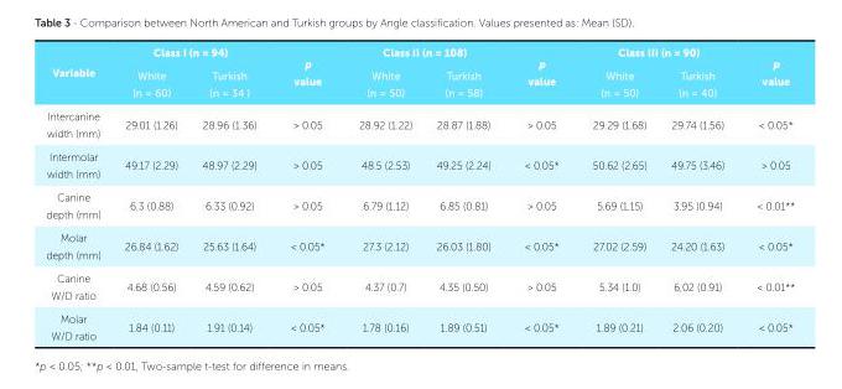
<table><thead><tr><td rowspan="2">Variable</td><td colspan="2">Class I (n = 94)</td><td rowspan="2">p value</td><td colspan="2">Class II (n = 108)</td><td rowspan="2">p value</td><td colspan="2">Class III (n = 90)</td><td rowspan="2">p value</td></tr><tr><td>White (n = 60)</td><td>Turkish (n = 34 )</td><td>White (n = 50)</td><td>Turkish (n = 58)</td><td>White (n = 50)</td><td>Turkish (n = 40)</td></tr></thead><tbody><tr><td>Intercanine width (mm)</td><td>29.01 (1.26)</td><td>28.96 (1.36)</td><td>&gt; 0.05</td><td>28.92 (1.22)</td><td>28.87 (1.88)</td><td>&gt; 0.05</td><td>29.29 (1.68)</td><td>29.74 (1.56)</td><td>&lt; 0.05*</td></tr><tr><td>Intermolar width (mm)</td><td>49.17 (2.29)</td><td>48.97 (2.29)</td><td>&gt; 0.05</td><td>48.5 (2.53)</td><td>49.25 (2.24)</td><td>&lt; 0.05*</td><td>50.62 (2.65)</td><td>49.75 (3.46)</td><td>&gt; 0.05</td></tr><tr><td>Canine depth (mm)</td><td>6.3 (0.88)</td><td>6.33 (0.92)</td><td>&gt; 0.05</td><td>6.79 (1.12)</td><td>6.85 (0.81)</td><td>&gt; 0.05</td><td>5.69 (1.15)</td><td>3.95 (0.94)</td><td>&lt; 0.01**</td></tr><tr><td>Molar depth (mm)</td><td>26.84 (1.62)</td><td>25.63 (1.64)</td><td>&lt; 0.05*</td><td>27.3 (2.12)</td><td>26.03 (1.80)</td><td>&lt; 0.05*</td><td>27.02 (2.59)</td><td>24.20 (1.63)</td><td>&lt; 0.05*</td></tr><tr><td>Canine W/D ratio</td><td>4.68 (0.56)</td><td>4.59 (0.62)</td><td>&gt; 0.05</td><td>4.37 (0.7)</td><td>4.35 (0.50)</td><td>&gt; 0.05</td><td>5.34 (1.0)</td><td>6,02 (0.91)</td><td>&lt; 0.01**</td></tr><tr><td>Molar W/D ratio</td><td>1.84 (0.11)</td><td>1.91 (0.14)</td><td>&lt; 0.05*</td><td>1.78 (0.16)</td><td>1.89 (0.51)</td><td>&lt; 0.05*</td><td>1.89 (0.21)</td><td>2.06 (0.20)</td><td>&lt; 0.05*</td></tr></tbody></table>